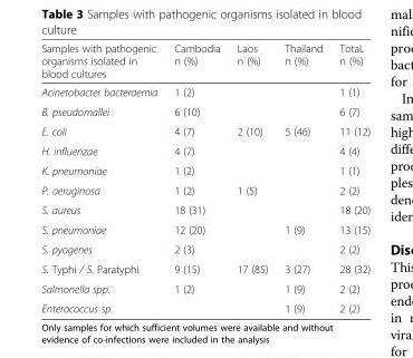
<table><thead><tr><td>Samples with pathogenic organisms isolated in blood cultures</td><td>Cambodia n (%)</td><td>Laos n (%)</td><td>Thailand n (%)</td><td>TotaL n (%)</td></tr></thead><tbody><tr><td>Acinetobacter bacteraemia</td><td>1 (2)</td><td></td><td></td><td>1 (1)</td></tr><tr><td>B. pseudomallei</td><td>6 (10)</td><td></td><td></td><td>6 (7)</td></tr><tr><td>E. coli</td><td>4 (7)</td><td>2 (10)</td><td>5 (46)</td><td>11 (12)</td></tr><tr><td>H. influenzae</td><td>4 (7)</td><td></td><td></td><td>4 (4)</td></tr><tr><td>K. pneumoniae</td><td>1 (2)</td><td></td><td></td><td>1 (1)</td></tr><tr><td>P. aeruginosa</td><td>1 (2)</td><td>1 (5)</td><td></td><td>2 (2)</td></tr><tr><td>S. aureus</td><td>18 (31)</td><td></td><td></td><td>18 (20)</td></tr><tr><td>S. pneumoniae</td><td>12 (20)</td><td></td><td>1 (9)</td><td>13 (15)</td></tr><tr><td>S. pyogenes</td><td>2 (3)</td><td></td><td></td><td>2 (2)</td></tr><tr><td>S. Typhi / S. Paratyphi</td><td>9 (15)</td><td>17 (85)</td><td>3 (27)</td><td>28 (32)</td></tr><tr><td>Salmonella spp.</td><td>1 (2)</td><td></td><td>1 (9)</td><td>2 (2)</td></tr><tr><td>Enterococcus sp.</td><td></td><td></td><td>1 (9)</td><td>2 (2)</td></tr></tbody></table>